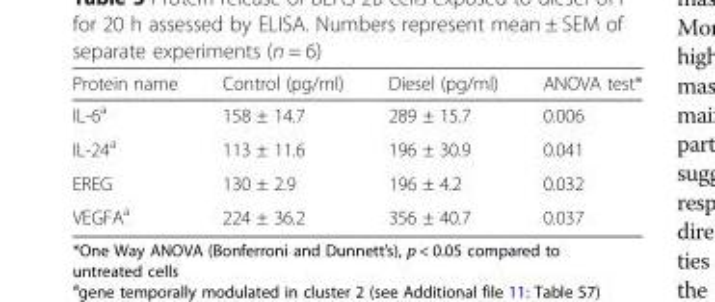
<table><thead><tr><td>Protein name</td><td>Control (pg/ml)</td><td>Diesel (pg/ml)</td><td>ANOVA test*</td></tr></thead><tbody><tr><td>IL-6<sup>a</sup></td><td>158 ± 14.7</td><td>289 ± 15.7</td><td>0.006</td></tr><tr><td>IL-24<sup>a</sup></td><td>113 ± 11.6</td><td>196 ± 30.9</td><td>0.041</td></tr><tr><td>EREG</td><td>130 ± 2.9</td><td>196 ± 4.2</td><td>0.032</td></tr><tr><td>VEGFA<sup>a</sup></td><td>224 ± 36.2</td><td>356 ± 40.7</td><td>0.037</td></tr></tbody></table>